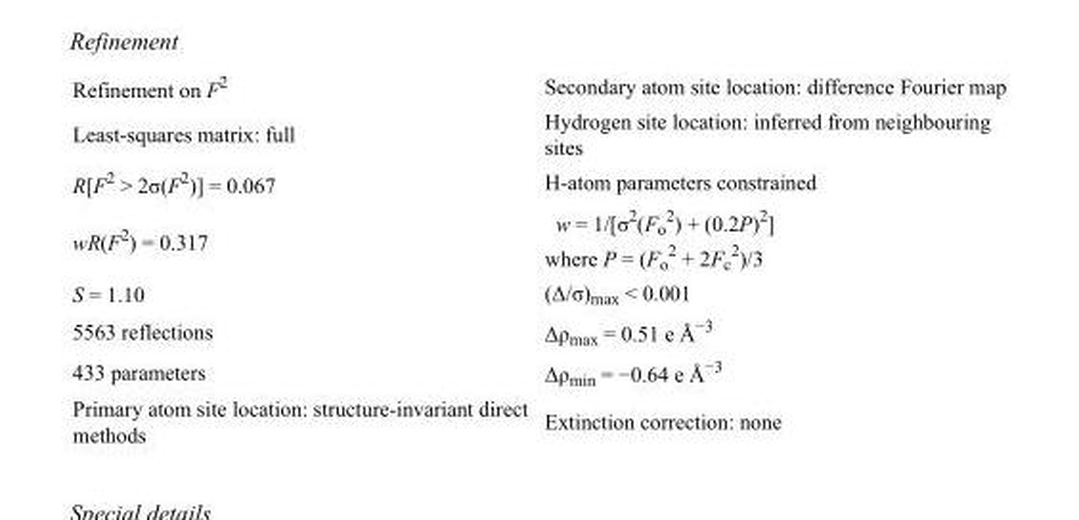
<table><tbody><tr><td>Refinement on F<sup>2</sup></td><td>Secondary atom site location: difference Fourier map</td></tr><tr><td>Least-squares matrix: full</td><td>Hydrogen site location: inferred from neighbouring sites</td></tr><tr><td>R[F<sup>2</sup> &gt; 2σ(F<sup>2</sup>)] = 0.067</td><td>H-atom parameters constrained</td></tr><tr><td>wR(F<sup>2</sup>) = 0.317</td><td>w = 1/[σ<sup>2</sup>(F<sub>o</sub> <sup>2</sup>) + (0.2P)<sup>2</sup>] where P = (F<sub>o</sub> <sup>2</sup> + 2F<sub>c</sub> <sup>2</sup>)/3</td></tr><tr><td>S = 1.10</td><td>(Δ/σ)<sub>max</sub> &lt; 0.001</td></tr><tr><td>5563 reflections</td><td>Δρ<sub>max</sub> = 0.51 e Å<sup>−3</sup></td></tr><tr><td>433 parameters</td><td>Δρ<sub>min</sub> = −0.64 e Å<sup>−3</sup></td></tr><tr><td>Primary atom site location: structure-invariant direct methods</td><td>Extinction correction: none</td></tr></tbody></table>